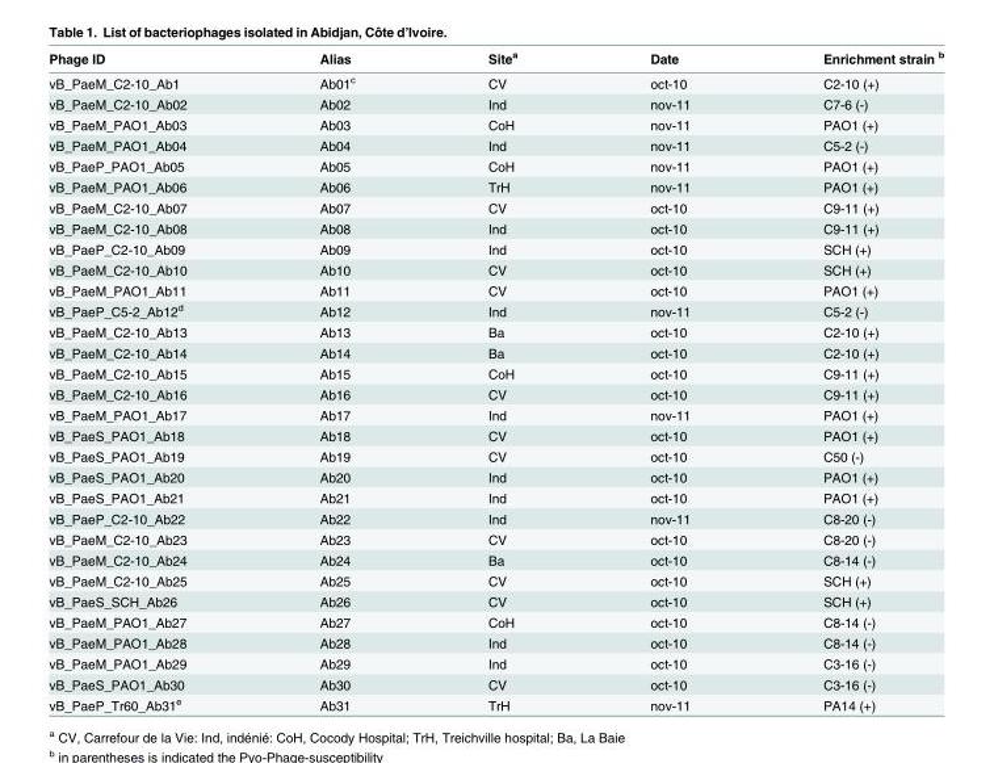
<table><thead><tr><td>Phage ID</td><td>Alias</td><td>Site<sup>a</sup></td><td>Date</td><td>Enrichment strain <sup>b</sup></td></tr></thead><tbody><tr><td>vB_PaeM_C2-10_Ab1</td><td>Ab01<sup>c</sup></td><td>CV</td><td>oct-10</td><td>C2-10 (+)</td></tr><tr><td>vB_PaeM_C2-10_Ab02</td><td>Ab02</td><td>Ind</td><td>nov-11</td><td>C7-6 (-)</td></tr><tr><td>vB_PaeM_PAO1_Ab03</td><td>Ab03</td><td>CoH</td><td>nov-11</td><td>PAO1 (+)</td></tr><tr><td>vB_PaeM_PAO1_Ab04</td><td>Ab04</td><td>Ind</td><td>nov-11</td><td>C5-2 (-)</td></tr><tr><td>vB_PaeP_PAO1_Ab05</td><td>Ab05</td><td>CoH</td><td>nov-11</td><td>PAO1 (+)</td></tr><tr><td>vB_PaeM_PAO1_Ab06</td><td>Ab06</td><td>TrH</td><td>nov-11</td><td>PAO1 (+)</td></tr><tr><td>vB_PaeM_C2-10_Ab07</td><td>Ab07</td><td>CV</td><td>oct-10</td><td>C9-11 (+)</td></tr><tr><td>vB_PaeM_C2-10_Ab08</td><td>Ab08</td><td>Ind</td><td>oct-10</td><td>C9-11 (+)</td></tr><tr><td>vB_PaeP_C2-10_Ab09</td><td>Ab09</td><td>Ind</td><td>oct-10</td><td>SCH (+)</td></tr><tr><td>vB_PaeM_C2-10_Ab10</td><td>Ab10</td><td>CV</td><td>oct-10</td><td>SCH (+)</td></tr><tr><td>vB_PaeM_PAO1_Ab11</td><td>Ab11</td><td>CV</td><td>oct-10</td><td>PAO1 (+)</td></tr><tr><td>vB_PaeP_C5-2_Ab12<sup>d</sup></td><td>Ab12</td><td>Ind</td><td>nov-11</td><td>C5-2 (-)</td></tr><tr><td>vB_PaeM_C2-10_Ab13</td><td>Ab13</td><td>Ba</td><td>oct-10</td><td>C2-10 (+)</td></tr><tr><td>vB_PaeM_C2-10_Ab14</td><td>Ab14</td><td>Ba</td><td>oct-10</td><td>C2-10 (+)</td></tr><tr><td>vB_PaeM_C2-10_Ab15</td><td>Ab15</td><td>CoH</td><td>oct-10</td><td>C9-11 (+)</td></tr><tr><td>vB_PaeM_C2-10_Ab16</td><td>Ab16</td><td>CV</td><td>oct-10</td><td>C9-11 (+)</td></tr><tr><td>vB_PaeM_PAO1_Ab17</td><td>Ab17</td><td>Ind</td><td>nov-11</td><td>PAO1 (+)</td></tr><tr><td>vB_PaeS_PAO1_Ab18</td><td>Ab18</td><td>CV</td><td>oct-10</td><td>PAO1 (+)</td></tr><tr><td>vB_PaeS_PAO1_Ab19</td><td>Ab19</td><td>CV</td><td>oct-10</td><td>C50 (-)</td></tr><tr><td>vB_PaeS_PAO1_Ab20</td><td>Ab20</td><td>Ind</td><td>oct-10</td><td>PAO1 (+)</td></tr><tr><td>vB_PaeS_PAO1_Ab21</td><td>Ab21</td><td>Ind</td><td>oct-10</td><td>PAO1 (+)</td></tr><tr><td>vB_PaeP_C2-10_Ab22</td><td>Ab22</td><td>Ind</td><td>nov-11</td><td>C8-20 (-)</td></tr><tr><td>vB_PaeM_C2-10_Ab23</td><td>Ab23</td><td>CV</td><td>oct-10</td><td>C8-20 (-)</td></tr><tr><td>vB_PaeM_C2-10_Ab24</td><td>Ab24</td><td>Ba</td><td>oct-10</td><td>C8-14 (-)</td></tr><tr><td>vB_PaeM_C2-10_Ab25</td><td>Ab25</td><td>CV</td><td>oct-10</td><td>SCH (+)</td></tr><tr><td>vB_PaeS_SCH_Ab26</td><td>Ab26</td><td>CV</td><td>oct-10</td><td>SCH (+)</td></tr><tr><td>vB_PaeM_PAO1_Ab27</td><td>Ab27</td><td>CoH</td><td>oct-10</td><td>C8-14 (-)</td></tr><tr><td>vB_PaeM_PAO1_Ab28</td><td>Ab28</td><td>Ind</td><td>oct-10</td><td>C8-14 (-)</td></tr><tr><td>vB_PaeM_PAO1_Ab29</td><td>Ab29</td><td>Ind</td><td>oct-10</td><td>C3-16 (-)</td></tr><tr><td>vB_PaeS_PAO1_Ab30</td><td>Ab30</td><td>CV</td><td>oct-10</td><td>C3-16 (-)</td></tr><tr><td>vB_PaeP_Tr60_Ab31<sup>e</sup></td><td>Ab31</td><td>TrH</td><td>nov-11</td><td>PA14 (+)</td></tr></tbody></table>